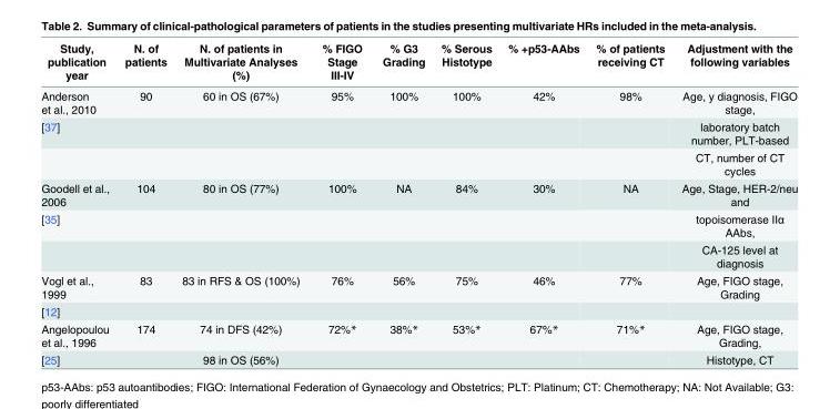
<table><thead><tr><td>Study, publication year</td><td>N. of patients</td><td>N. of patients in Multivariate Analyses (%)</td><td>% FIGO Stage III-IV</td><td>% G3 Grading</td><td>% Serous Histotype</td><td>% +p53-AAbs</td><td>% of patients receiving CT</td><td>Adjustment with the following variables</td></tr></thead><tbody><tr><td>Anderson et al., 2010</td><td>90</td><td>60 in OS (67%)</td><td>95%</td><td>100%</td><td>100%</td><td>42%</td><td>98%</td><td>Age, y diagnosis, FIGO stage,</td></tr><tr><td rowspan="2">[37]</td><td></td><td></td><td></td><td></td><td></td><td></td><td></td><td>laboratory batch number, PLT-based</td></tr><tr><td></td><td></td><td></td><td></td><td></td><td></td><td></td><td>CT, number of CT cycles</td></tr><tr><td>Goodell et al., 2006</td><td>104</td><td>80 in OS (77%)</td><td>100%</td><td>NA</td><td>84%</td><td>30%</td><td>NA</td><td>Age, Stage, HER-2/neu and</td></tr><tr><td rowspan="2">[35]</td><td></td><td></td><td></td><td></td><td></td><td></td><td></td><td>topoisomerase IIα AAbs,</td></tr><tr><td></td><td></td><td></td><td></td><td></td><td></td><td></td><td>CA-125 level at diagnosis</td></tr><tr><td>Vogl et al., 1999</td><td>83</td><td>83 in RFS &amp; OS (100%)</td><td>76%</td><td>56%</td><td>75%</td><td>46%</td><td>77%</td><td>Age, FIGO stage, Grading</td></tr><tr><td colspan="9">[12]</td></tr><tr><td>Angelopoulou et al., 1996</td><td>174</td><td>74 in DFS (42%)</td><td>72%*</td><td>38%*</td><td>53%*</td><td>67%*</td><td>71%*</td><td>Age, FIGO stage, Grading,</td></tr><tr><td>[25]</td><td></td><td>98 in OS (56%)</td><td></td><td></td><td></td><td></td><td></td><td>Histotype, CT</td></tr></tbody></table>